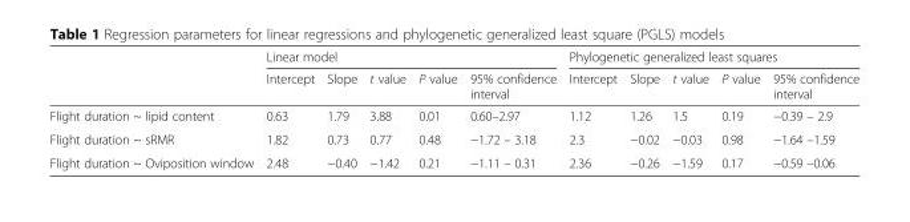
<table><thead><tr><td rowspan="2"></td><td colspan="5">Linear model</td><td colspan="5">Phylogenetic generalized least squares</td></tr><tr><td>Intercept</td><td>Slope</td><td>t value</td><td>P value</td><td>95% confidence interval</td><td>Intercept</td><td>Slope</td><td>t value</td><td>P value</td><td>95% confidence interval</td></tr></thead><tbody><tr><td>Flight duration ~ lipid content</td><td>0.63</td><td>1.79</td><td>3.88</td><td>0.01</td><td>0.60–2.97</td><td>1.12</td><td>1.26</td><td>1.5</td><td>0.19</td><td>−0.39 – 2.9</td></tr><tr><td>Flight duration ~ sRMR</td><td>1.82</td><td>0.73</td><td>0.77</td><td>0.48</td><td>−1.72 – 3.18</td><td>2.3</td><td>−0.02</td><td>−0.03</td><td>0.98</td><td>−1.64 –1.59</td></tr><tr><td>Flight duration ~ Oviposition window</td><td>2.48</td><td>−0.40</td><td>−1.42</td><td>0.21</td><td>−1.11 – 0.31</td><td>2.36</td><td>−0.26</td><td>−1.59</td><td>0.17</td><td>−0.59 –0.06</td></tr></tbody></table>